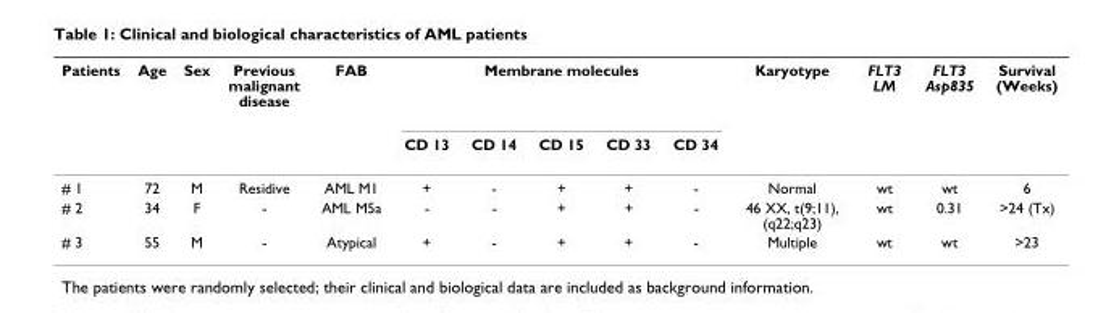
<table><thead><tr><td rowspan="2">Patients</td><td rowspan="2">Age</td><td rowspan="2">Sex</td><td rowspan="2">Previous malignant disease</td><td rowspan="2">FAB</td><td colspan="5">Membrane molecules</td><td rowspan="2">Karyotype</td><td rowspan="2">FLT3 LM</td><td rowspan="2">FLT3 Asp835</td><td rowspan="2">Survival (Weeks)</td></tr><tr><td>CD 13</td><td>CD 14</td><td>CD 15</td><td>CD 33</td><td>CD 34</td></tr></thead><tbody><tr><td># 1</td><td>72</td><td>M</td><td>Residive</td><td>AML M1</td><td>+</td><td>-</td><td>+</td><td>+</td><td>-</td><td>Normal</td><td>wt</td><td>wt</td><td>6</td></tr><tr><td># 2</td><td>34</td><td>F</td><td>-</td><td>AML M5a</td><td>-</td><td>-</td><td>+</td><td>+</td><td>-</td><td>46 XX, t(9;11), (q22;q23)</td><td>wt</td><td>0.31</td><td>&gt;24 (Tx)</td></tr><tr><td># 3</td><td>55</td><td>M</td><td>-</td><td>Atypical</td><td>+</td><td>-</td><td>+</td><td>+</td><td>-</td><td>Multiple</td><td>wt</td><td>wt</td><td>&gt;23</td></tr></tbody></table>